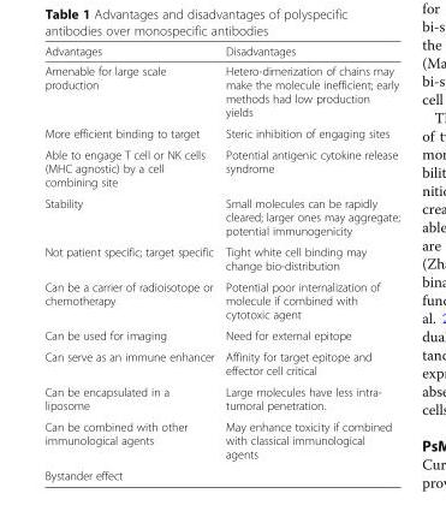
<table><thead><tr><td>Advantages</td><td>Disadvantages</td></tr></thead><tbody><tr><td>Amenable for large scale production</td><td>Hetero-dimerization of chains may make the molecule inefficient; early methods had low production yields</td></tr><tr><td>More efficient binding to target</td><td>Steric inhibition of engaging sites</td></tr><tr><td>Able to engage T cell or NK cells (MHC agnostic) by a cell combining site</td><td>Potential antigenic cytokine release syndrome</td></tr><tr><td>Stability</td><td>Small molecules can be rapidly cleared; larger ones may aggregate; potential immunogenicity</td></tr><tr><td>Not patient specific; target specific</td><td>Tight white cell binding may change bio-distribution</td></tr><tr><td>Can be a carrier of radioisotope or chemotherapy</td><td>Potential poor internalization of molecule if combined with cytotoxic agent</td></tr><tr><td>Can be used for imaging</td><td>Need for external epitope</td></tr><tr><td>Can serve as an immune enhancer</td><td>Affinity for target epitope and effector cell critical</td></tr><tr><td>Can be encapsulated in a liposome</td><td>Large molecules have less intra- tumoral penetration.</td></tr><tr><td>Can be combined with other immunological agents</td><td>May enhance toxicity if combined with classical immunological agents</td></tr><tr><td>Bystander effect</td><td></td></tr></tbody></table>